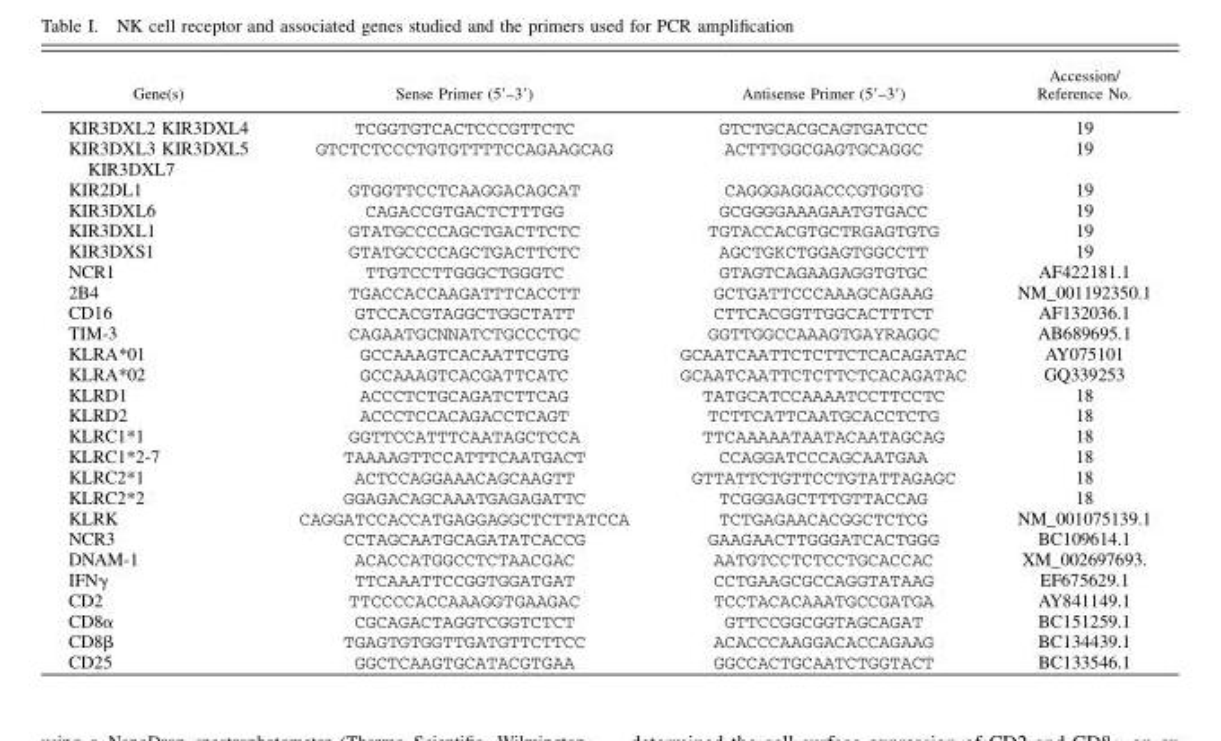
<table><thead><tr><td>Gene(s)</td><td>Sense Primer (5′–3′)</td><td>Antisense Primer (5′–3′)</td><td>Accession/ Reference No.</td></tr></thead><tbody><tr><td>KIR3DXL2 KIR3DXL4</td><td>TCGGTGTCACTCCCGTTCTC</td><td>GTCTGCACGCAGTGATCCC</td><td>19</td></tr><tr><td>KIR3DXL3 KIR3DXL5 KIR3DXL7</td><td>GTCTCTCCCTGTGTTTTCCAGAAGCAG</td><td>ACTTTGGCGAGTGCAGGC</td><td>19</td></tr><tr><td>KIR2DL1</td><td>GTGGTTCCTCAAGGACAGCAT</td><td>CAGGGAGGACCCGTGGTG</td><td>19</td></tr><tr><td>KIR3DXL6</td><td>CAGACCGTGACTCTTTGG</td><td>GCGGGGAAAGAATGTGACC</td><td>19</td></tr><tr><td>KIR3DXL1</td><td>GTATGCCCCAGCTGACTTCTC</td><td>TGTACCACGTGCTRGAGTGTG</td><td>19</td></tr><tr><td>KIR3DXS1</td><td>GTATGCCCCAGCTGACTTCTC</td><td>AGCTGKCTGGAGTGGCCTT</td><td>19</td></tr><tr><td>NCR1</td><td>TTGTCCTTGGGCTGGGTC</td><td>GTAGTCAGAAGAGGTGTGC</td><td>AF422181.1</td></tr><tr><td>2B4</td><td>TGACCACCAAGATTTCACCTT</td><td>GCTGATTCCCAAAGCAGAAG</td><td>NM_001192350.1</td></tr><tr><td>CD16</td><td>GTCCACGTAGGCTGGCTATT</td><td>CTTCACGGTTGGCACTTTCT</td><td>AF132036.1</td></tr><tr><td>TIM-3</td><td>CAGAATGCNNATCTGCCCTGC</td><td>GGTTGGCCAAAGTGAYRAGGC</td><td>AB689695.1</td></tr><tr><td>KLRA*01</td><td>GCCAAAGTCACAATTCGTG</td><td>GCAATCAATTCTCTTCTCACAGATAC</td><td>AY075101</td></tr><tr><td>KLRA*02</td><td>GCCAAAGTCACGATTCATC</td><td>GCAATCAATTCTCTTCTCACAGATAC</td><td>GQ339253</td></tr><tr><td>KLRD1</td><td>ACCCTCTGCAGATCTTCAG</td><td>TATGCATCCAAAATCCTTCCTC</td><td>18</td></tr><tr><td>KLRD2</td><td>ACCCTCCACAGACCTCAGT</td><td>TCTTCATTCAATGCACCTCTG</td><td>18</td></tr><tr><td>KLRC1*1</td><td>GGTTCCATTTCAATAGCTCCA</td><td>TTCAAAAATAATACAATAGCAG</td><td>18</td></tr><tr><td>KLRC1*2-7</td><td>TAAAAGTTCCATTTCAATGACT</td><td>CCAGGATCCCAGCAATGAA</td><td>18</td></tr><tr><td>KLRC2*1</td><td>ACTCCAGGAAACAGCAAGTT</td><td>GTTATTCTGTTCCTGTATTAGAGC</td><td>18</td></tr><tr><td>KLRC2*2</td><td>GGAGACAGCAAATGAGAGATTC</td><td>TCGGGAGCTTTGTTACCAG</td><td>18</td></tr><tr><td>KLRK</td><td>CAGGATCCACCATGAGGAGGCTCTTATCCA</td><td>TCTGAGAACACGGCTCTCG</td><td>NM_001075139.1</td></tr><tr><td>NCR3</td><td>CCTAGCAATGCAGATATCACCG</td><td>GAAGAACTTGGGATCACTGGG</td><td>BC109614.1</td></tr><tr><td>DNAM-1</td><td>ACACCATGGCCTCTAACGAC</td><td>AATGTCCTCTCCTGCACCAC</td><td>XM_002697693.</td></tr><tr><td>IFNγ</td><td>TTCAAATTCCGGTGGATGAT</td><td>CCTGAAGCGCCAGGTATAAG</td><td>EF675629.1</td></tr><tr><td>CD2</td><td>TTCCCCACCAAAGGTGAAGAC</td><td>TCCTACACAAATGCCGATGA</td><td>AY841149.1</td></tr><tr><td>CD8α</td><td>CGCAGACTAGGTCGGTCTCT</td><td>GTTCCGGCGGTAGCAGAT</td><td>BC151259.1</td></tr><tr><td>CD8β</td><td>TGAGTGTGGTTGATGTTCTTCC</td><td>ACACCCAAGGACACCAGAAG</td><td>BC134439.1</td></tr><tr><td>CD25</td><td>GGCTCAAGTGCATACGTGAA</td><td>GGCCACTGCAATCTGGTACT</td><td>BC133546.1</td></tr></tbody></table>